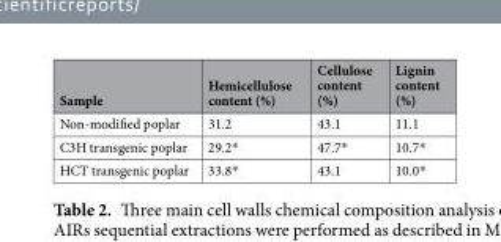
<table><thead><tr><td>Sample</td><td>Hemicellulose content (%)</td><td>Cellulose content (%)</td><td>Lignin content (%)</td></tr></thead><tbody><tr><td>Non-modified poplar</td><td>31.2</td><td>43.1</td><td>11.1</td></tr><tr><td>C3H transgenic poplar</td><td>29.2*</td><td>47.7*</td><td>10.7*</td></tr><tr><td>HCT transgenic poplar</td><td>33.8*</td><td>43.1</td><td>10.0*</td></tr></tbody></table>